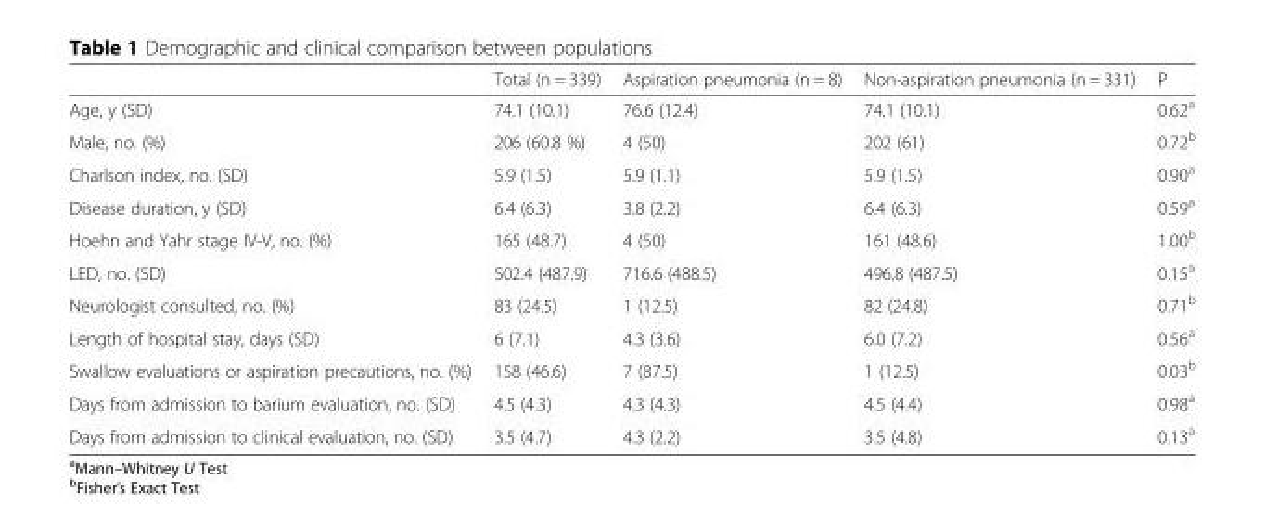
<table><thead><tr><td></td><td>Total (n = 339)</td><td>Aspiration pneumonia (n = 8)</td><td>Non-aspiration pneumonia (n = 331)</td><td>P</td></tr></thead><tbody><tr><td>Age, y (SD)</td><td>74.1 (10.1)</td><td>76.6 (12.4)</td><td>74.1 (10.1)</td><td>0.62<sup>a</sup></td></tr><tr><td>Male, no. (%)</td><td>206 (60.8 %)</td><td>4 (50)</td><td>202 (61)</td><td>0.72<sup>b</sup></td></tr><tr><td>Charlson index, no. (SD)</td><td>5.9 (1.5)</td><td>5.9 (1.1)</td><td>5.9 (1.5)</td><td>0.90<sup>a</sup></td></tr><tr><td>Disease duration, y (SD)</td><td>6.4 (6.3)</td><td>3.8 (2.2)</td><td>6.4 (6.3)</td><td>0.59<sup>a</sup></td></tr><tr><td>Hoehn and Yahr stage IV-V, no. (%)</td><td>165 (48.7)</td><td>4 (50)</td><td>161 (48.6)</td><td>1.00<sup>b</sup></td></tr><tr><td>LED, no. (SD)</td><td>502.4 (487.9)</td><td>716.6 (488.5)</td><td>496.8 (487.5)</td><td>0.15<sup>a</sup></td></tr><tr><td>Neurologist consulted, no. (%)</td><td>83 (24.5)</td><td>1 (12.5)</td><td>82 (24.8)</td><td>0.71<sup>b</sup></td></tr><tr><td>Length of hospital stay, days (SD)</td><td>6 (7.1)</td><td>4.3 (3.6)</td><td>6.0 (7.2)</td><td>0.56<sup>a</sup></td></tr><tr><td>Swallow evaluations or aspiration precautions, no. (%)</td><td>158 (46.6)</td><td>7 (87.5)</td><td>1 (12.5)</td><td>0.03<sup>b</sup></td></tr><tr><td>Days from admission to barium evaluation, no. (SD)</td><td>4.5 (4.3)</td><td>4.3 (4.3)</td><td>4.5 (4.4)</td><td>0.98<sup>a</sup></td></tr><tr><td>Days from admission to clinical evaluation, no. (SD)</td><td>3.5 (4.7)</td><td>4.3 (2.2)</td><td>3.5 (4.8)</td><td>0.13<sup>a</sup></td></tr></tbody></table>